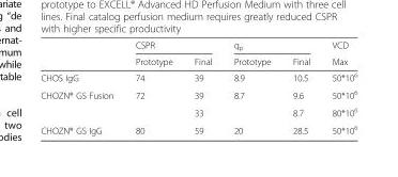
<table><thead><tr><td rowspan="2"></td><td colspan="2">CSPR</td><td colspan="2">q<sub>p</sub></td><td rowspan="2">VCD Max</td></tr><tr><td>Prototype</td><td>Final</td><td>Prototype</td><td>Final</td></tr></thead><tbody><tr><td>CHOS IgG</td><td>74</td><td>39</td><td>8.9</td><td>10.5</td><td>50*10<sup>6</sup></td></tr><tr><td rowspan="2">CHOZN® GS Fusion</td><td>72</td><td>39</td><td>8.7</td><td>9.6</td><td>50*10<sup>6</sup></td></tr><tr><td></td><td>33</td><td></td><td>8.7</td><td>80*10<sup>6</sup></td></tr><tr><td>CHOZN® GS IgG</td><td>80</td><td>59</td><td>20</td><td>28.5</td><td>50*10<sup>6</sup></td></tr></tbody></table>